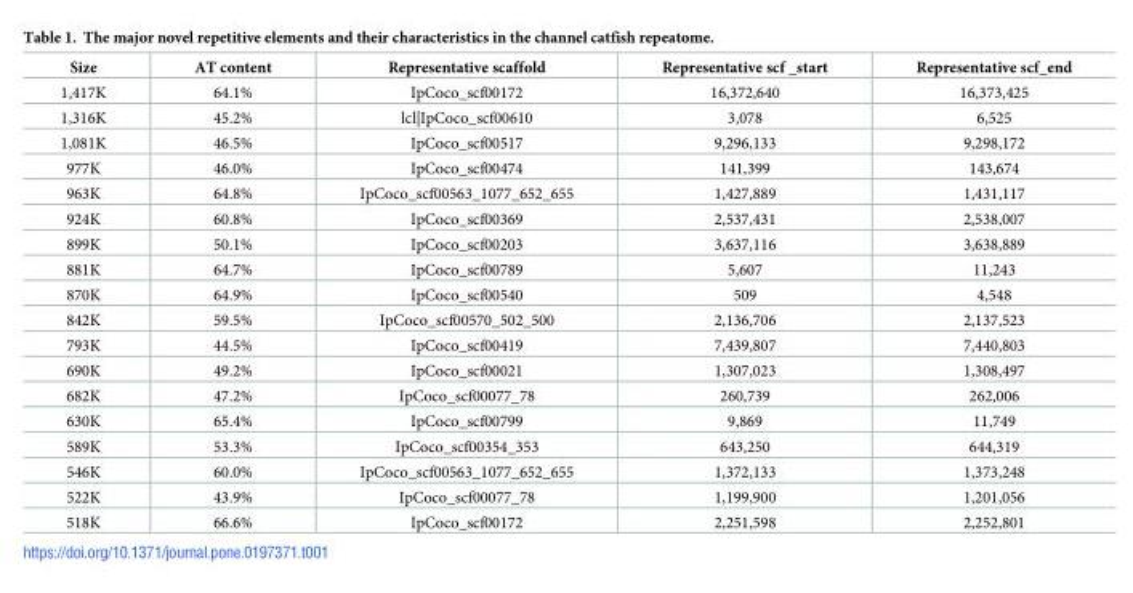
<table><thead><tr><td>Size</td><td>AT content</td><td>Representative scaffold</td><td>Representative scf _start</td><td>Representative scf_end</td></tr></thead><tbody><tr><td>1,417K</td><td>64.1%</td><td>IpCoco_scf00172</td><td>16,372,640</td><td>16,373,425</td></tr><tr><td>1,316K</td><td>45.2%</td><td>lcl|IpCoco_scf00610</td><td>3,078</td><td>6,525</td></tr><tr><td>1,081K</td><td>46.5%</td><td>IpCoco_scf00517</td><td>9,296,133</td><td>9,298,172</td></tr><tr><td>977K</td><td>46.0%</td><td>IpCoco_scf00474</td><td>141,399</td><td>143,674</td></tr><tr><td>963K</td><td>64.8%</td><td>IpCoco_scf00563_1077_652_655</td><td>1,427,889</td><td>1,431,117</td></tr><tr><td>924K</td><td>60.8%</td><td>IpCoco_scf00369</td><td>2,537,431</td><td>2,538,007</td></tr><tr><td>899K</td><td>50.1%</td><td>IpCoco_scf00203</td><td>3,637,116</td><td>3,638,889</td></tr><tr><td>881K</td><td>64.7%</td><td>IpCoco_scf00789</td><td>5,607</td><td>11,243</td></tr><tr><td>870K</td><td>64.9%</td><td>IpCoco_scf00540</td><td>509</td><td>4,548</td></tr><tr><td>842K</td><td>59.5%</td><td>IpCoco_scf00570_502_500</td><td>2,136,706</td><td>2,137,523</td></tr><tr><td>793K</td><td>44.5%</td><td>IpCoco_scf00419</td><td>7,439,807</td><td>7,440,803</td></tr><tr><td>690K</td><td>49.2%</td><td>IpCoco_scf00021</td><td>1,307,023</td><td>1,308,497</td></tr><tr><td>682K</td><td>47.2%</td><td>IpCoco_scf00077_78</td><td>260,739</td><td>262,006</td></tr><tr><td>630K</td><td>65.4%</td><td>IpCoco_scf00799</td><td>9,869</td><td>11,749</td></tr><tr><td>589K</td><td>53.3%</td><td>IpCoco_scf00354_353</td><td>643,250</td><td>644,319</td></tr><tr><td>546K</td><td>60.0%</td><td>IpCoco_scf00563_1077_652_655</td><td>1,372,133</td><td>1,373,248</td></tr><tr><td>522K</td><td>43.9%</td><td>IpCoco_scf00077_78</td><td>1,199,900</td><td>1,201,056</td></tr><tr><td>518K</td><td>66.6%</td><td>IpCoco_scf00172</td><td>2,251,598</td><td>2,252,801</td></tr></tbody></table>